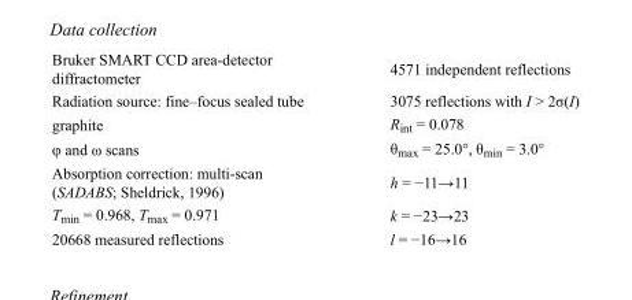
<table><tbody><tr><td>Bruker SMART CCD area-detector diffractometer</td><td>4571 independent reflections</td></tr><tr><td>Radiation source: fine–focus sealed tube</td><td>3075 reflections with I &gt; 2σ(I)</td></tr><tr><td>graphite</td><td>R<sub>int</sub> = 0.078</td></tr><tr><td>φ and ω scans</td><td>θ<sub>max</sub> = 25.0°, θ<sub>min</sub> = 3.0°</td></tr><tr><td>Absorption correction: multi-scan (SADABS; Sheldrick, 1996)</td><td>h = −11→11</td></tr><tr><td>T<sub>min</sub> = 0.968, T<sub>max</sub> = 0.971</td><td>k = −23→23</td></tr><tr><td>20668 measured reflections</td><td>l = −16→16</td></tr></tbody></table>